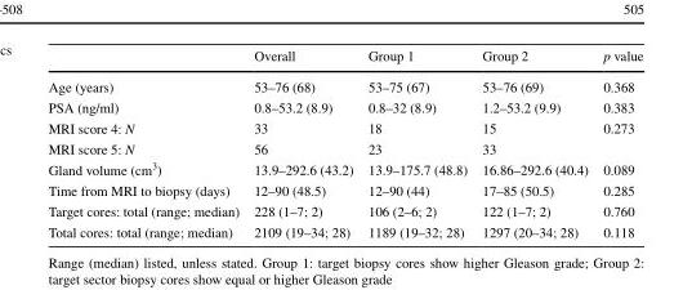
<table><thead><tr><td></td><td>Overall</td><td>Group 1</td><td>Group 2</td><td>p value</td></tr></thead><tbody><tr><td>Age (years)</td><td>53–76 (68)</td><td>53–75 (67)</td><td>53–76 (69)</td><td>0.368</td></tr><tr><td>PSA (ng/ml)</td><td>0.8–53.2 (8.9)</td><td>0.8–32 (8.9)</td><td>1.2–53.2 (9.9)</td><td>0.383</td></tr><tr><td>MRI score 4: N</td><td>33</td><td>18</td><td>15</td><td>0.273</td></tr><tr><td>MRI score 5: N</td><td>56</td><td>23</td><td>33</td><td></td></tr><tr><td>Gland volume (cm<sup>3</sup>)</td><td>13.9–292.6 (43.2)</td><td>13.9–175.7 (48.8)</td><td>16.86–292.6 (40.4)</td><td>0.089</td></tr><tr><td>Time from MRI to biopsy (days)</td><td>12–90 (48.5)</td><td>12–90 (44)</td><td>17–85 (50.5)</td><td>0.285</td></tr><tr><td>Target cores: total (range; median)</td><td>228 (1–7; 2)</td><td>106 (2–6; 2)</td><td>122 (1–7; 2)</td><td>0.760</td></tr><tr><td>Total cores: total (range; median)</td><td>2109 (19–34; 28)</td><td>1189 (19–32; 28)</td><td>1297 (20–34; 28)</td><td>0.118</td></tr></tbody></table>